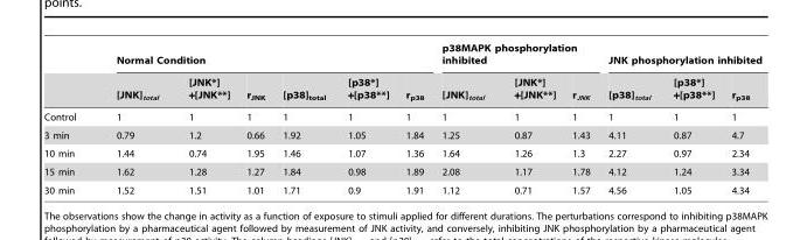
<table><thead><tr><td rowspan="2"></td><td colspan="6">Normal Condition</td><td colspan="3">p38MAPK phosphorylation inhibited</td><td colspan="3">JNK phosphorylation inhibited</td></tr><tr><td>[JNK]<sub>total</sub></td><td>[JNK*] +[JNK**]</td><td>r<sub>JNK</sub></td><td>[p38]<sub>total</sub></td><td>[p38*] +[p38**]</td><td>r<sub>p38</sub></td><td>[JNK]<sub>total</sub></td><td>[JNK*] +[JNK**]</td><td>r<sub>JNK</sub></td><td>[p38]<sub>total</sub></td><td>[p38*] +[p38**]</td><td>r<sub>p38</sub></td></tr></thead><tbody><tr><td>Control</td><td>1</td><td>1</td><td>1</td><td>1</td><td>1</td><td>1</td><td>1</td><td>1</td><td>1</td><td>1</td><td>1</td><td>1</td></tr><tr><td>3 min</td><td>0.79</td><td>1.2</td><td>0.66</td><td>1.92</td><td>1.05</td><td>1.84</td><td>1.25</td><td>0.87</td><td>1.43</td><td>4.11</td><td>0.87</td><td>4.7</td></tr><tr><td>10 min</td><td>1.44</td><td>0.74</td><td>1.95</td><td>1.46</td><td>1.07</td><td>1.36</td><td>1.64</td><td>1.26</td><td>1.3</td><td>2.27</td><td>0.97</td><td>2.34</td></tr><tr><td>15 min</td><td>1.62</td><td>1.28</td><td>1.27</td><td>1.84</td><td>0.98</td><td>1.89</td><td>2.08</td><td>1.17</td><td>1.78</td><td>4.12</td><td>1.24</td><td>3.34</td></tr><tr><td>30 min</td><td>1.52</td><td>1.51</td><td>1.01</td><td>1.71</td><td>0.9</td><td>1.91</td><td>1.12</td><td>0.71</td><td>1.57</td><td>4.56</td><td>1.05</td><td>4.34</td></tr></tbody></table>